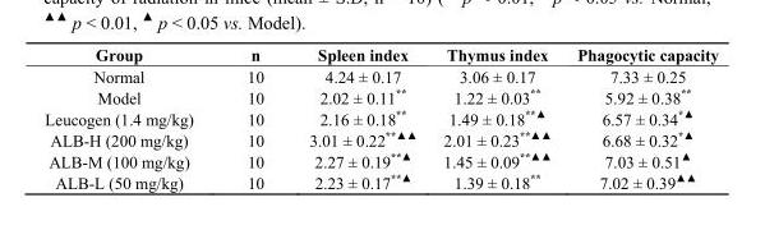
<table><thead><tr><td>Group</td><td>n</td><td>Spleen index</td><td>Thymus index</td><td>Phagocytic capacity</td></tr></thead><tbody><tr><td>Normal</td><td>10</td><td>4.24 ± 0.17</td><td>3.06 ± 0.17</td><td>7.33 ± 0.25</td></tr><tr><td>Model</td><td>10</td><td>2.02 ± 0.11**</td><td>1.22 ± 0.03**</td><td>5.92 ± 0.38**</td></tr><tr><td>Leucogen (1.4 mg/kg)</td><td>10</td><td>2.16 ± 0.18**</td><td>1.49 ± 0.18<sup>**▲</sup></td><td>6.57 ± 0.34<sup>*▲</sup></td></tr><tr><td>ALB-H (200 mg/kg)</td><td>10</td><td>3.01 ± 0.22<sup>**▲▲</sup></td><td>2.01 ± 0.23<sup>**▲▲</sup></td><td>6.68 ± 0.32<sup>*▲</sup></td></tr><tr><td>ALB-M (100 mg/kg)</td><td>10</td><td>2.27 ± 0.19<sup>**▲</sup></td><td>1.45 ± 0.09<sup>**▲▲</sup></td><td>7.03 ± 0.51<sup>▲</sup></td></tr><tr><td>ALB-L (50 mg/kg)</td><td>10</td><td>2.23 ± 0.17<sup>**▲</sup></td><td>1.39 ± 0.18**</td><td>7.02 ± 0.39<sup>▲▲</sup></td></tr></tbody></table>